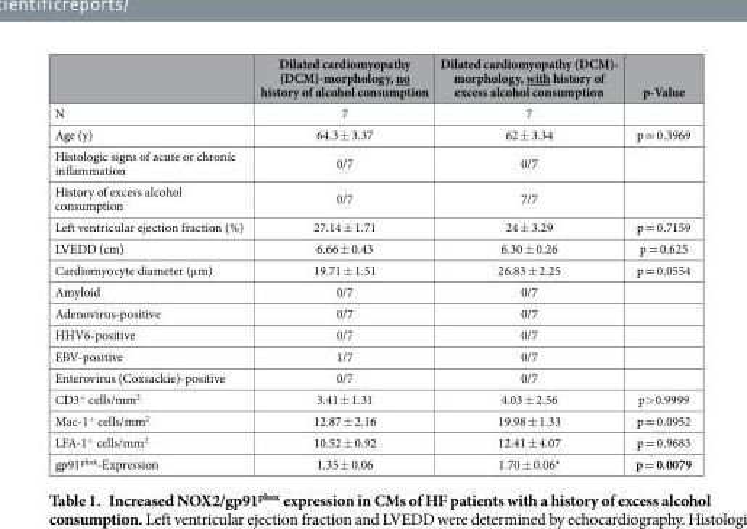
<table><thead><tr><td></td><td>Dilated cardiomyopathy (DCM)-morphology, no history of alcohol consumption</td><td>Dilated cardiomyopathy (DCM)- morphology, with history of excess alcohol consumption</td><td>p-Value</td></tr></thead><tbody><tr><td>N</td><td>7</td><td>7</td><td></td></tr><tr><td>Age (y)</td><td>64.3 ± 3.37</td><td>62 ± 3.34</td><td>p = 0.3969</td></tr><tr><td>Histologic signs of acute or chronic inflammation</td><td>0/7</td><td>0/7</td><td></td></tr><tr><td>History of excess alcohol consumption</td><td>0/7</td><td>7/7</td><td></td></tr><tr><td>Left ventricular ejection fraction (%)</td><td>27.14 ± 1.71</td><td>24 ± 3.29</td><td>p = 0.7159</td></tr><tr><td>LVEDD (cm)</td><td>6.66 ± 0.43</td><td>6.30 ± 0.26</td><td>p = 0.625</td></tr><tr><td>Cardiomyocyte diameter (μ m)</td><td>19.71 ± 1.51</td><td>26.83 ± 2.25</td><td>p = 0.0554</td></tr><tr><td>Amyloid</td><td>0/7</td><td>0/7</td><td></td></tr><tr><td>Adenovirus-positive</td><td>0/7</td><td>0/7</td><td></td></tr><tr><td>HHV6-positive</td><td>0/7</td><td>0/7</td><td></td></tr><tr><td>EBV-positive</td><td>1/7</td><td>0/7</td><td></td></tr><tr><td>Enterovirus (Coxsackie)-positive</td><td>0/7</td><td>0/7</td><td></td></tr><tr><td>CD3<sup>+</sup> cells/mm<sup>2</sup></td><td>3.41 ± 1.31</td><td>4.03 ± 2.56</td><td>p&gt; 0.9999</td></tr><tr><td>Mac-1<sup>+</sup> cells/mm<sup>2</sup></td><td>12.87 ± 2.16</td><td>19.98 ± 1.33</td><td>p = 0.0952</td></tr><tr><td>LFA-1<sup>+</sup> cells/mm<sup>2</sup></td><td>10.52 ± 0.92</td><td>12.41 ± 4.07</td><td>p = 0.9683</td></tr><tr><td>gp91<sup>phox</sup>-Expression</td><td>1.35 ± 0.06</td><td>1.70 ± 0.06*</td><td>p = 0.0079</td></tr></tbody></table>